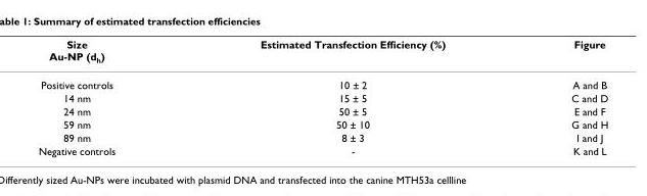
<table><thead><tr><td>Size Au-NP (d<sub>h</sub>)</td><td>Estimated Transfection Efficiency (%)</td><td>Figure</td></tr></thead><tbody><tr><td>Positive controls</td><td>10 ± 2</td><td>A and B</td></tr><tr><td>14 nm</td><td>15 ± 5</td><td>C and D</td></tr><tr><td>24 nm</td><td>50 ± 5</td><td>E and F</td></tr><tr><td>59 nm</td><td>50 ± 10</td><td>G and H</td></tr><tr><td>89 nm</td><td>8 ± 3</td><td>I and J</td></tr><tr><td>Negative controls</td><td>-</td><td>K and L</td></tr></tbody></table>